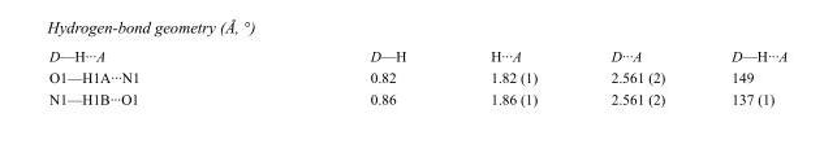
<table><tbody><tr><td>D—H···A</td><td>D—H</td><td>H···A</td><td>D···A</td><td>D—H···A</td></tr><tr><td>O1—H1A···N1</td><td>0.82</td><td>1.82 (1)</td><td>2.561 (2)</td><td>149</td></tr><tr><td>N1—H1B···O1</td><td>0.86</td><td>1.86 (1)</td><td>2.561 (2)</td><td>137 (1)</td></tr></tbody></table>